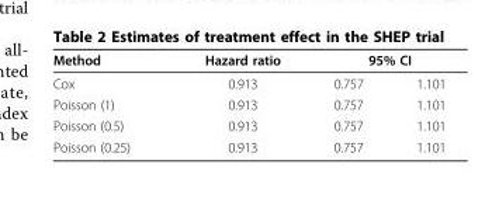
<table><thead><tr><td rowspan="2">Method Cox</td><td rowspan="2">Hazard ratio 0.913</td><td colspan="2">95% CI</td></tr><tr><td>0.757</td><td>1.101</td></tr></thead><tbody><tr><td>Poisson (1)</td><td>0.913</td><td>0.757</td><td>1.101</td></tr><tr><td>Poisson (0.5)</td><td>0.913</td><td>0.757</td><td>1.101</td></tr><tr><td>Poisson (0.25)</td><td>0.913</td><td>0.757</td><td>1.101</td></tr></tbody></table>